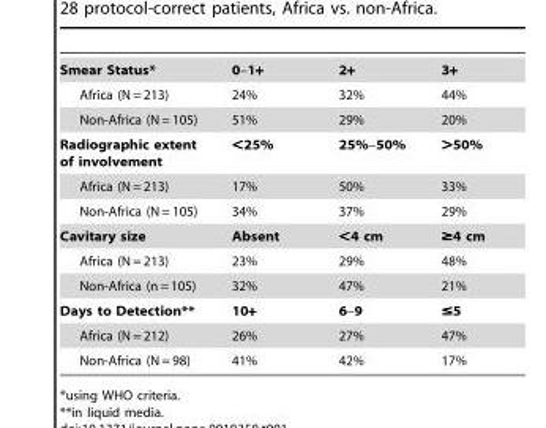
<table><tbody><tr><td>Smear Status*</td><td>0–1+</td><td>2+</td><td>3+</td></tr><tr><td>Africa (N = 213)</td><td>24%</td><td>32%</td><td>44%</td></tr><tr><td>Non-Africa (N = 105)</td><td>51%</td><td>29%</td><td>20%</td></tr><tr><td>Radiographic extent of involvement</td><td>&lt;25%</td><td>25%–50%</td><td>&gt;50%</td></tr><tr><td>Africa (N = 213)</td><td>17%</td><td>50%</td><td>33%</td></tr><tr><td>Non-Africa (N = 105)</td><td>34%</td><td>37%</td><td>29%</td></tr><tr><td>Cavitary size</td><td>Absent</td><td>&lt;4 cm</td><td>≥4 cm</td></tr><tr><td>Africa (N = 213)</td><td>23%</td><td>29%</td><td>48%</td></tr><tr><td>Non-Africa (n = 105)</td><td>32%</td><td>47%</td><td>21%</td></tr><tr><td>Days to Detection**</td><td>10+</td><td>6–9</td><td>≤5</td></tr><tr><td>Africa (N = 212)</td><td>26%</td><td>27%</td><td>47%</td></tr><tr><td>Non-Africa (N = 98)</td><td>41%</td><td>42%</td><td>17%</td></tr></tbody></table>